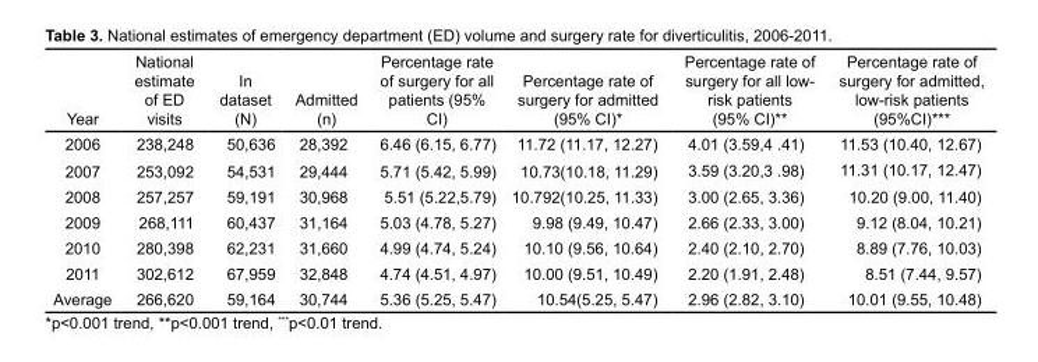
<table><thead><tr><td>Year</td><td>National estimate of ED visits</td><td>In dataset (N)</td><td>Admitted (n)</td><td>Percentage rate of surgery for all patients (95% CI)</td><td>Percentage rate of surgery for admitted (95% CI)*</td><td>Percentage rate of surgery for all low- risk patients (95% CI)**</td><td>Percentage rate of surgery for admitted, low-risk patients (95%CI)***</td></tr></thead><tbody><tr><td>2006</td><td>238,248</td><td>50,636</td><td>28,392</td><td>6.46 (6.15, 6.77)</td><td>11.72 (11.17, 12.27)</td><td>4.01 (3.59,4 .41)</td><td>11.53 (10.40, 12.67)</td></tr><tr><td>2007</td><td>253,092</td><td>54,531</td><td>29,444</td><td>5.71 (5.42, 5.99)</td><td>10.73(10.18, 11.29)</td><td>3.59 (3.20,3 .98)</td><td>11.31 (10.17, 12.47)</td></tr><tr><td>2008</td><td>257,257</td><td>59,191</td><td>30,968</td><td>5.51 (5.22,5.79)</td><td>10.792(10.25, 11.33)</td><td>3.00 (2.65, 3.36)</td><td>10.20 (9.00, 11.40)</td></tr><tr><td>2009</td><td>268,111</td><td>60,437</td><td>31,164</td><td>5.03 (4.78, 5.27)</td><td>9.98 (9.49, 10.47)</td><td>2.66 (2.33, 3.00)</td><td>9.12 (8.04, 10.21)</td></tr><tr><td>2010</td><td>280,398</td><td>62,231</td><td>31,660</td><td>4.99 (4.74, 5.24)</td><td>10.10 (9.56, 10.64)</td><td>2.40 (2.10, 2.70)</td><td>8.89 (7.76, 10.03)</td></tr><tr><td>2011</td><td>302,612</td><td>67,959</td><td>32,848</td><td>4.74 (4.51, 4.97)</td><td>10.00 (9.51, 10.49)</td><td>2.20 (1.91, 2.48)</td><td>8.51 (7.44, 9.57)</td></tr><tr><td>Average</td><td>266,620</td><td>59,164</td><td>30,744</td><td>5.36 (5.25, 5.47)</td><td>10.54(5.25, 5.47)</td><td>2.96 (2.82, 3.10)</td><td>10.01 (9.55, 10.48)</td></tr></tbody></table>